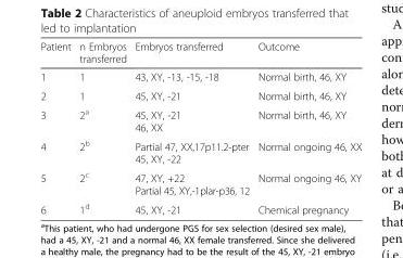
<table><thead><tr><td>Patient</td><td>n Embryos transferred</td><td>Embryos transferred</td><td>Outcome</td></tr></thead><tbody><tr><td>1</td><td>1</td><td>43, XY, -13, -15, -18</td><td>Normal birth, 46, XY</td></tr><tr><td>2</td><td>1</td><td>45, XY, -21</td><td>Normal birth, 46, XY</td></tr><tr><td>3</td><td>2<sup>a</sup></td><td>45, XY, -21 46, XX</td><td>Normal birth, 46, XY</td></tr><tr><td>4</td><td>2<sup>b</sup></td><td>Partial 47, XX,17p11.2-pter 45, XY, -22</td><td>Normal ongoing 46, XX</td></tr><tr><td>5</td><td>2<sup>c</sup></td><td>47, XY, +22 Partial 45, XY,-1plar-p36, 12</td><td>Normal ongoing 46, XY</td></tr><tr><td>6</td><td>1<sup>d</sup></td><td>45, XY, -21</td><td>Chemical pregnancy</td></tr></tbody></table>